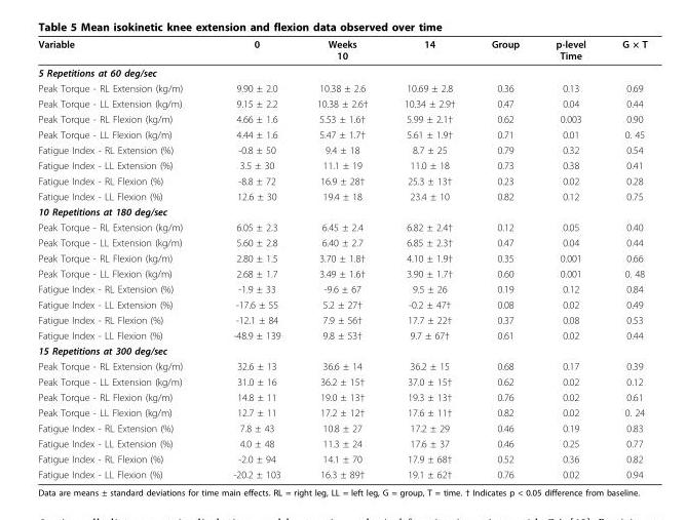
<table><thead><tr><td>Variable</td><td>0</td><td>Weeks 10</td><td>14</td><td>Group</td><td>p-level Time</td><td>G × T</td></tr></thead><tbody><tr><td colspan="7">5 Repetitions at 60 deg/sec</td></tr><tr><td>Peak Torque - RL Extension (kg/m)</td><td>9.90 ± 2.0</td><td>10.38 ± 2.6</td><td>10.69 ± 2.8</td><td>0.36</td><td>0.13</td><td>0.69</td></tr><tr><td>Peak Torque - LL Extension (kg/m)</td><td>9.15 ± 2.2</td><td>10.38 ± 2.6†</td><td>10.34 ± 2.9†</td><td>0.47</td><td>0.04</td><td>0.44</td></tr><tr><td>Peak Torque - RL Flexion (kg/m)</td><td>4.66 ± 1.6</td><td>5.53 ± 1.6†</td><td>5.99 ± 2.1†</td><td>0.62</td><td>0.003</td><td>0.90</td></tr><tr><td>Peak Torque - LL Flexion (kg/m)</td><td>4.44 ± 1.6</td><td>5.47 ± 1.7†</td><td>5.61 ± 1.9†</td><td>0.71</td><td>0.01</td><td>0. 45</td></tr><tr><td>Fatigue Index - RL Extension (%)</td><td>-0.8 ± 50</td><td>9.4 ± 18</td><td>8.7 ± 25</td><td>0.79</td><td>0.32</td><td>0.54</td></tr><tr><td>Fatigue Index - LL Extension (%)</td><td>3.5 ± 30</td><td>11.1 ± 19</td><td>11.0 ± 18</td><td>0.73</td><td>0.38</td><td>0.41</td></tr><tr><td>Fatigue Index - RL Flexion (%)</td><td>-8.8 ± 72</td><td>16.9 ± 28†</td><td>25.3 ± 13†</td><td>0.23</td><td>0.02</td><td>0.28</td></tr><tr><td>Fatigue Index - LL Flexion (%)</td><td>12.6 ± 30</td><td>19.4 ± 18</td><td>23.4 ± 10</td><td>0.82</td><td>0.12</td><td>0.75</td></tr><tr><td colspan="7">10 Repetitions at 180 deg/sec</td></tr><tr><td>Peak Torque - RL Extension (kg/m)</td><td>6.05 ± 2.3</td><td>6.45 ± 2.4</td><td>6.82 ± 2.4†</td><td>0.12</td><td>0.05</td><td>0.40</td></tr><tr><td>Peak Torque - LL Extension (kg/m)</td><td>5.60 ± 2.8</td><td>6.40 ± 2.7</td><td>6.85 ± 2.3†</td><td>0.47</td><td>0.04</td><td>0.44</td></tr><tr><td>Peak Torque - RL Flexion (kg/m)</td><td>2.80 ± 1.5</td><td>3.70 ± 1.8†</td><td>4.10 ± 1.9†</td><td>0.35</td><td>0.001</td><td>0.66</td></tr><tr><td>Peak Torque - LL Flexion (kg/m)</td><td>2.68 ± 1.7</td><td>3.49 ± 1.6†</td><td>3.90 ± 1.7†</td><td>0.60</td><td>0.001</td><td>0. 48</td></tr><tr><td>Fatigue Index - RL Extension (%)</td><td>-1.9 ± 33</td><td>-9.6 ± 67</td><td>9.5 ± 26</td><td>0.19</td><td>0.12</td><td>0.84</td></tr><tr><td>Fatigue Index - LL Extension (%)</td><td>-17.6 ± 55</td><td>5.2 ± 27†</td><td>-0.2 ± 47†</td><td>0.08</td><td>0.02</td><td>0.49</td></tr><tr><td>Fatigue Index - RL Flexion (%)</td><td>-12.1 ± 84</td><td>7.9 ± 56†</td><td>17.7 ± 22†</td><td>0.37</td><td>0.08</td><td>0.53</td></tr><tr><td>Fatigue Index - LL Flexion (%)</td><td>-48.9 ± 139</td><td>9.8 ± 53†</td><td>9.7 ± 67†</td><td>0.61</td><td>0.02</td><td>0.44</td></tr><tr><td colspan="7">15 Repetitions at 300 deg/sec</td></tr><tr><td>Peak Torque - RL Extension (kg/m)</td><td>32.6 ± 13</td><td>36.6 ± 14</td><td>36.2 ± 15</td><td>0.68</td><td>0.17</td><td>0.39</td></tr><tr><td>Peak Torque - LL Extension (kg/m)</td><td>31.0 ± 16</td><td>36.2 ± 15†</td><td>37.0 ± 15†</td><td>0.62</td><td>0.02</td><td>0.12</td></tr><tr><td>Peak Torque - RL Flexion (kg/m)</td><td>14.8 ± 11</td><td>19.0 ± 13†</td><td>19.3 ± 13†</td><td>0.76</td><td>0.02</td><td>0.61</td></tr><tr><td>Peak Torque - LL Flexion (kg/m)</td><td>12.7 ± 11</td><td>17.2 ± 12†</td><td>17.6 ± 11†</td><td>0.82</td><td>0.02</td><td>0. 24</td></tr><tr><td>Fatigue Index - RL Extension (%)</td><td>7.8 ± 43</td><td>10.8 ± 27</td><td>17.2 ± 29</td><td>0.46</td><td>0.19</td><td>0.83</td></tr><tr><td>Fatigue Index - LL Extension (%)</td><td>4.0 ± 48</td><td>11.3 ± 24</td><td>17.6 ± 37</td><td>0.46</td><td>0.25</td><td>0.77</td></tr><tr><td>Fatigue Index - RL Flexion (%)</td><td>-2.0 ± 94</td><td>14.1 ± 70</td><td>17.9 ± 68†</td><td>0.52</td><td>0.36</td><td>0.82</td></tr><tr><td>Fatigue Index - LL Flexion (%)</td><td>-20.2 ± 103</td><td>16.3 ± 89†</td><td>19.1 ± 62†</td><td>0.76</td><td>0.02</td><td>0.94</td></tr></tbody></table>